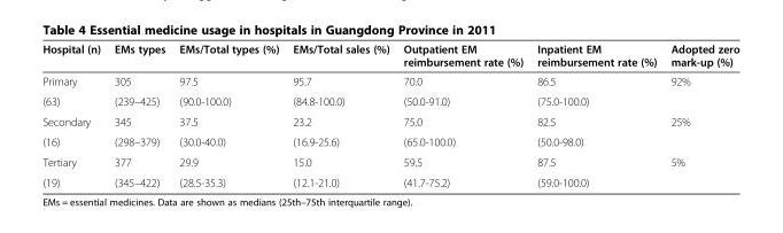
<table><thead><tr><td>Hospital (n)</td><td>EMs types</td><td>EMs/Total types (%)</td><td>EMs/Total sales (%)</td><td>Outpatient EM reimbursement rate (%)</td><td>Inpatient EM reimbursement rate (%)</td><td>Adopted zero mark-up (%)</td></tr></thead><tbody><tr><td>Primary</td><td>305</td><td>97.5</td><td>95.7</td><td>70.0</td><td>86.5</td><td>92%</td></tr><tr><td>(63)</td><td>(239–425)</td><td>(90.0-100.0)</td><td>(84.8-100.0)</td><td>(50.0-91.0)</td><td>(75.0-100.0)</td><td></td></tr><tr><td>Secondary</td><td>345</td><td>37.5</td><td>23.2</td><td>75.0</td><td>82.5</td><td>25%</td></tr><tr><td>(16)</td><td>(298–379)</td><td>(30.0-40.0)</td><td>(16.9-25.6)</td><td>(65.0-100.0)</td><td>(50.0-98.0)</td><td></td></tr><tr><td>Tertiary</td><td>377</td><td>29.9</td><td>15.0</td><td>59.5</td><td>87.5</td><td>5%</td></tr><tr><td>(19)</td><td>(345–422)</td><td>(28.5-35.3)</td><td>(12.1-21.0)</td><td>(41.7-75.2)</td><td>(59.0-100.0)</td><td></td></tr></tbody></table>